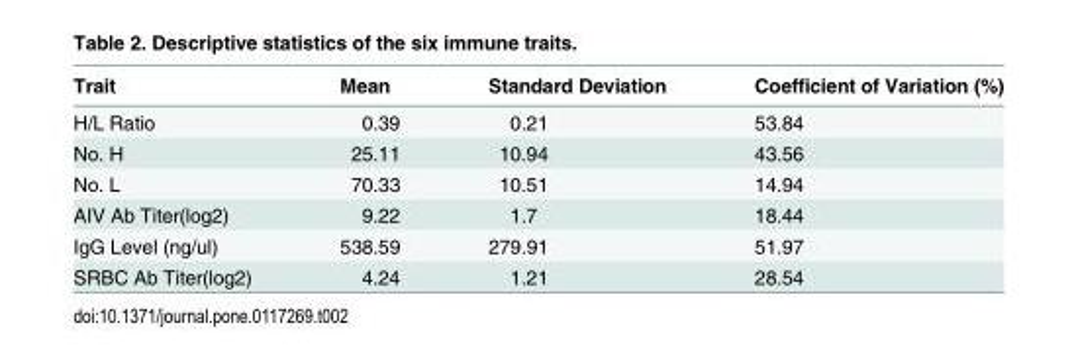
<table><thead><tr><td>Trait</td><td>Mean</td><td>Standard Deviation</td><td>Coefficient of Variation (%)</td></tr></thead><tbody><tr><td>H/L Ratio</td><td>0.39</td><td>0.21</td><td>53.84</td></tr><tr><td>No. H</td><td>25.11</td><td>10.94</td><td>43.56</td></tr><tr><td>No. L</td><td>70.33</td><td>10.51</td><td>14.94</td></tr><tr><td>AIV Ab Titer(log2)</td><td>9.22</td><td>1.7</td><td>18.44</td></tr><tr><td>IgG Level (ng/ul)</td><td>538.59</td><td>279.91</td><td>51.97</td></tr><tr><td>SRBC Ab Titer(log2)</td><td>4.24</td><td>1.21</td><td>28.54</td></tr></tbody></table>